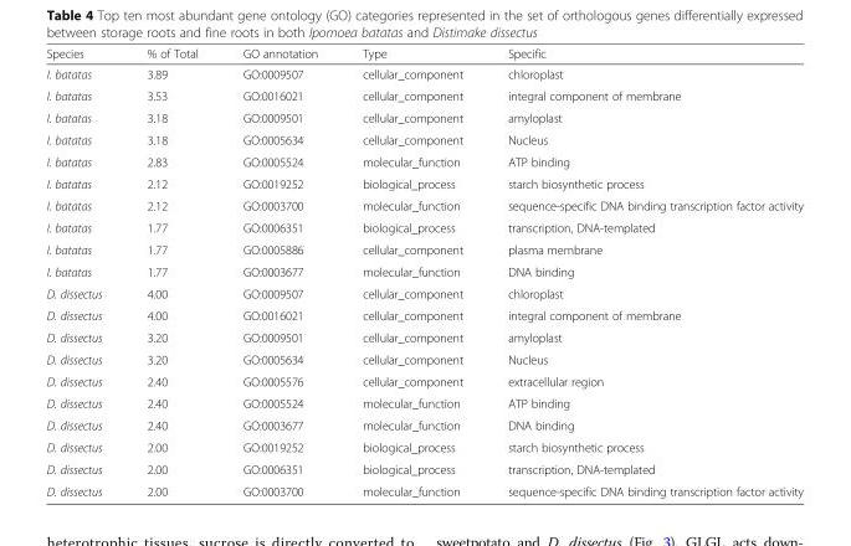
<table><thead><tr><td>Species</td><td>% of Total</td><td>GO annotation</td><td>Type</td><td>Specific</td></tr></thead><tbody><tr><td>I. batatas</td><td>3.89</td><td>GO:0009507</td><td>cellular_component</td><td>chloroplast</td></tr><tr><td>I. batatas</td><td>3.53</td><td>GO:0016021</td><td>cellular_component</td><td>integral component of membrane</td></tr><tr><td>I. batatas</td><td>3.18</td><td>GO:0009501</td><td>cellular_component</td><td>amyloplast</td></tr><tr><td>I. batatas</td><td>3.18</td><td>GO:0005634</td><td>cellular_component</td><td>Nucleus</td></tr><tr><td>I. batatas</td><td>2.83</td><td>GO:0005524</td><td>molecular_function</td><td>ATP binding</td></tr><tr><td>I. batatas</td><td>2.12</td><td>GO:0019252</td><td>biological_process</td><td>starch biosynthetic process</td></tr><tr><td>I. batatas</td><td>2.12</td><td>GO:0003700</td><td>molecular_function</td><td>sequence-specific DNA binding transcription factor activity</td></tr><tr><td>I. batatas</td><td>1.77</td><td>GO:0006351</td><td>biological_process</td><td>transcription, DNA-templated</td></tr><tr><td>I. batatas</td><td>1.77</td><td>GO:0005886</td><td>cellular_component</td><td>plasma membrane</td></tr><tr><td>I. batatas</td><td>1.77</td><td>GO:0003677</td><td>molecular_function</td><td>DNA binding</td></tr><tr><td>D. dissectus</td><td>4.00</td><td>GO:0009507</td><td>cellular_component</td><td>chloroplast</td></tr><tr><td>D. dissectus</td><td>4.00</td><td>GO:0016021</td><td>cellular_component</td><td>integral component of membrane</td></tr><tr><td>D. dissectus</td><td>3.20</td><td>GO:0009501</td><td>cellular_component</td><td>amyloplast</td></tr><tr><td>D. dissectus</td><td>3.20</td><td>GO:0005634</td><td>cellular_component</td><td>Nucleus</td></tr><tr><td>D. dissectus</td><td>2.40</td><td>GO:0005576</td><td>cellular_component</td><td>extracellular region</td></tr><tr><td>D. dissectus</td><td>2.40</td><td>GO:0005524</td><td>molecular_function</td><td>ATP binding</td></tr><tr><td>D. dissectus</td><td>2.40</td><td>GO:0003677</td><td>molecular_function</td><td>DNA binding</td></tr><tr><td>D. dissectus</td><td>2.00</td><td>GO:0019252</td><td>biological_process</td><td>starch biosynthetic process</td></tr><tr><td>D. dissectus</td><td>2.00</td><td>GO:0006351</td><td>biological_process</td><td>transcription, DNA-templated</td></tr><tr><td>D. dissectus</td><td>2.00</td><td>GO:0003700</td><td>molecular_function</td><td>sequence-specific DNA binding transcription factor activity</td></tr></tbody></table>